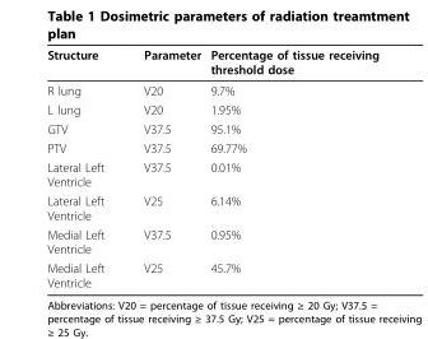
<table><thead><tr><td>Structure</td><td>Parameter</td><td>Percentage of tissue receiving threshold dose</td></tr></thead><tbody><tr><td>R lung</td><td>V20</td><td>9.7%</td></tr><tr><td>L lung</td><td>V20</td><td>1.95%</td></tr><tr><td>GTV</td><td>V37.5</td><td>95.1%</td></tr><tr><td>PTV</td><td>V37.5</td><td>69.77%</td></tr><tr><td>Lateral Left Ventricle</td><td>V37.5</td><td>0.01%</td></tr><tr><td>Lateral Left Ventricle</td><td>V25</td><td>6.14%</td></tr><tr><td>Medial Left Ventricle</td><td>V37.5</td><td>0.95%</td></tr><tr><td>Medial Left Ventricle</td><td>V25</td><td>45.7%</td></tr></tbody></table>